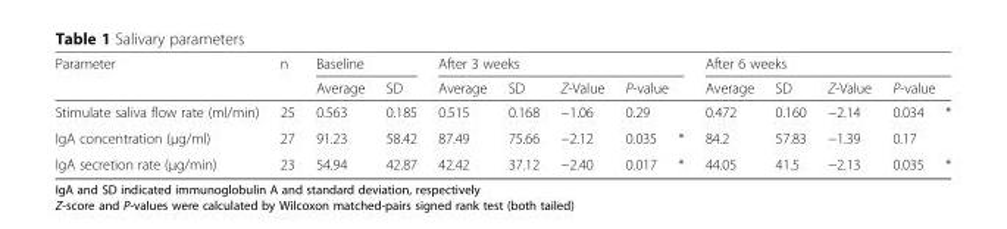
<table><thead><tr><td rowspan="3">Parameter Stimulate saliva flow rate (ml/min)</td><td rowspan="3">n 25</td><td colspan="2">Baseline</td><td colspan="5">After 3 weeks</td><td colspan="5">After 6 weeks</td></tr><tr><td rowspan="2">Average 0.563</td><td rowspan="2">SD 0.185</td><td rowspan="2">Average 0.515</td><td rowspan="2">SD 0.168</td><td rowspan="2">Z-Value −1.06</td><td colspan="2">P-value</td><td rowspan="2">Average 0.472</td><td rowspan="2">SD 0.160</td><td rowspan="2">Z-Value −2.14</td><td colspan="2">P-value</td></tr><tr><td>0.29</td><td></td><td>0.034</td><td>*</td></tr></thead><tbody><tr><td>IgA concentration (μg/ml)</td><td>27</td><td>91.23</td><td>58.42</td><td>87.49</td><td>75.66</td><td>−2.12</td><td>0.035</td><td>*</td><td>84.2</td><td>57.83</td><td>−1.39</td><td>0.17</td><td></td></tr><tr><td>IgA secretion rate (μg/min)</td><td>23</td><td>54.94</td><td>42.87</td><td>42.42</td><td>37.12</td><td>−2.40</td><td>0.017</td><td>*</td><td>44.05</td><td>41.5</td><td>−2.13</td><td>0.035</td><td>*</td></tr></tbody></table>